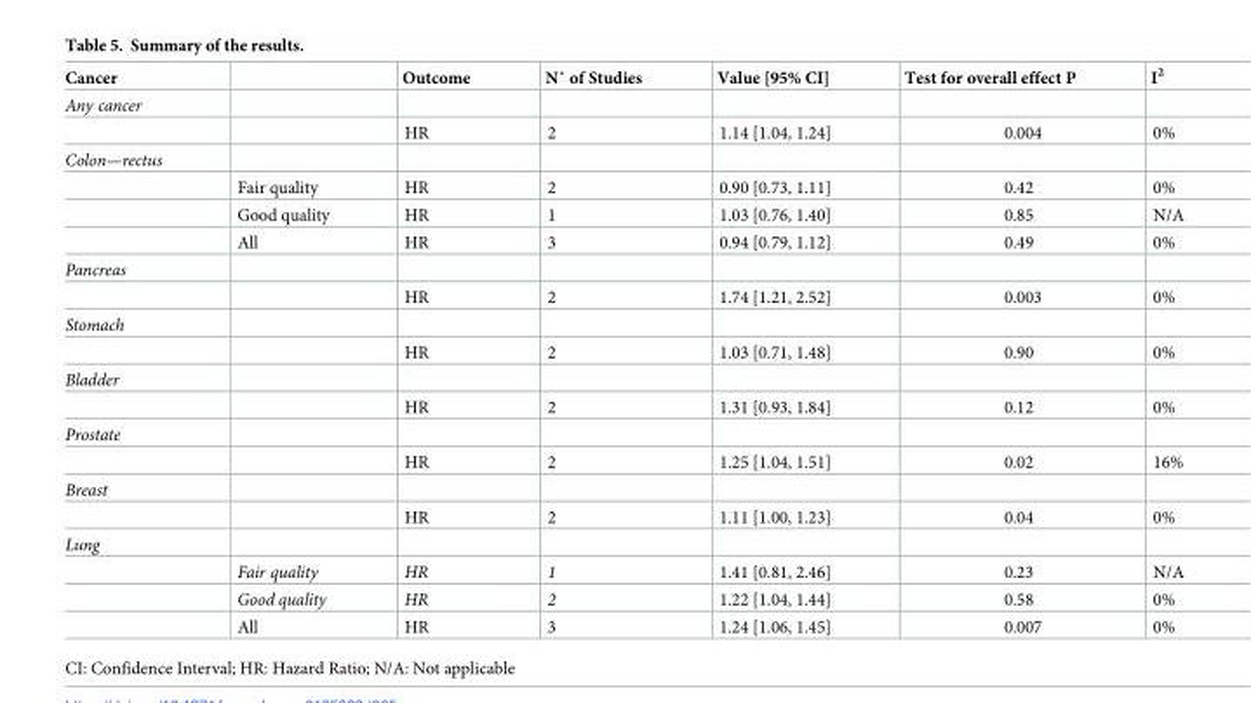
<table><thead><tr><td>Cancer</td><td></td><td>Outcome</td><td>N˚ of Studies</td><td>Value [95% CI]</td><td>Test for overall effect P</td><td>I<sup>2</sup></td></tr></thead><tbody><tr><td colspan="7">Any cancer</td></tr><tr><td></td><td></td><td>HR</td><td>2</td><td>1.14 [1.04, 1.24]</td><td>0.004</td><td>0%</td></tr><tr><td colspan="7">Colon—rectus</td></tr><tr><td></td><td>Fair quality</td><td>HR</td><td>2</td><td>0.90 [0.73, 1.11]</td><td>0.42</td><td>0%</td></tr><tr><td></td><td>Good quality</td><td>HR</td><td>1</td><td>1.03 [0.76, 1.40]</td><td>0.85</td><td>N/A</td></tr><tr><td></td><td>All</td><td>HR</td><td>3</td><td>0.94 [0.79, 1.12]</td><td>0.49</td><td>0%</td></tr><tr><td colspan="7">Pancreas</td></tr><tr><td></td><td></td><td>HR</td><td>2</td><td>1.74 [1.21, 2.52]</td><td>0.003</td><td>0%</td></tr><tr><td colspan="7">Stomach</td></tr><tr><td></td><td></td><td>HR</td><td>2</td><td>1.03 [0.71, 1.48]</td><td>0.90</td><td>0%</td></tr><tr><td colspan="7">Bladder</td></tr><tr><td></td><td></td><td>HR</td><td>2</td><td>1.31 [0.93, 1.84]</td><td>0.12</td><td>0%</td></tr><tr><td colspan="7">Prostate</td></tr><tr><td></td><td></td><td>HR</td><td>2</td><td>1.25 [1.04, 1.51]</td><td>0.02</td><td>16%</td></tr><tr><td colspan="7">Breast</td></tr><tr><td></td><td></td><td>HR</td><td>2</td><td>1.11 [1.00, 1.23]</td><td>0.04</td><td>0%</td></tr><tr><td colspan="7">Lung</td></tr><tr><td></td><td>Fair quality</td><td>HR</td><td>1</td><td>1.41 [0.81, 2.46]</td><td>0.23</td><td>N/A</td></tr><tr><td></td><td>Good quality</td><td>HR</td><td>2</td><td>1.22 [1.04, 1.44]</td><td>0.58</td><td>0%</td></tr><tr><td></td><td>All</td><td>HR</td><td>3</td><td>1.24 [1.06, 1.45]</td><td>0.007</td><td>0%</td></tr></tbody></table>